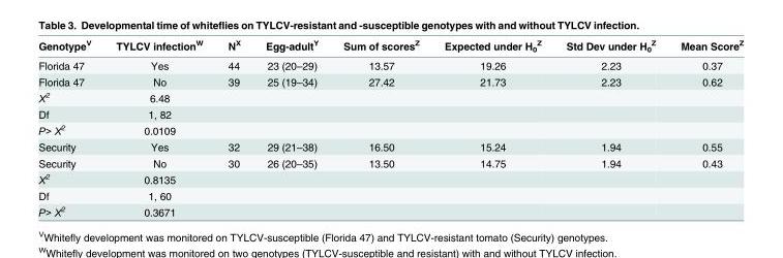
<table><thead><tr><td>Genotype<sup>V</sup></td><td>TYLCV infection<sup>W</sup></td><td>N<sup>X</sup></td><td>Egg-adult<sup>Y</sup></td><td>Sum of scores<sup>Z</sup></td><td>Expected under H<sub>0</sub> <sup>Z</sup></td><td>Std Dev under H<sub>0</sub> <sup>Z</sup></td><td>Mean Score<sup>Z</sup></td></tr></thead><tbody><tr><td>Florida 47</td><td>Yes</td><td>44</td><td>23 (20–29)</td><td>13.57</td><td>19.26</td><td>2.23</td><td>0.37</td></tr><tr><td>Florida 47</td><td>No</td><td>39</td><td>25 (19–34)</td><td>27.42</td><td>21.73</td><td>2.23</td><td>0.62</td></tr><tr><td>Χ<sup>2</sup></td><td>6.48</td><td></td><td></td><td></td><td></td><td></td><td></td></tr><tr><td>Df</td><td>1, 82</td><td></td><td></td><td></td><td></td><td></td><td></td></tr><tr><td>P&gt; Χ<sup>2</sup></td><td>0.0109</td><td></td><td></td><td></td><td></td><td></td><td></td></tr><tr><td>Security</td><td>Yes</td><td>32</td><td>29 (21–38)</td><td>16.50</td><td>15.24</td><td>1.94</td><td>0.55</td></tr><tr><td>Security</td><td>No</td><td>30</td><td>26 (20–35)</td><td>13.50</td><td>14.75</td><td>1.94</td><td>0.43</td></tr><tr><td>Χ<sup>2</sup></td><td>0.8135</td><td></td><td></td><td></td><td></td><td></td><td></td></tr><tr><td>Df</td><td>1, 60</td><td></td><td></td><td></td><td></td><td></td><td></td></tr><tr><td>P&gt; Χ<sup>2</sup></td><td>0.3671</td><td></td><td></td><td></td><td></td><td></td><td></td></tr></tbody></table>